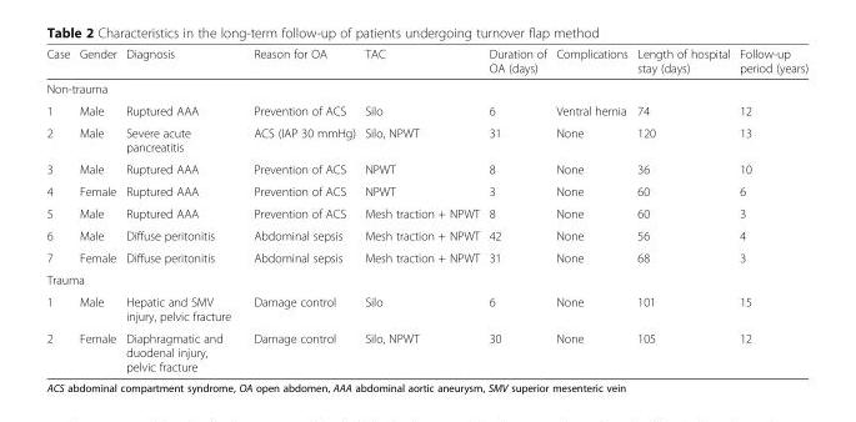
<table><thead><tr><td>Case</td><td>Gender</td><td>Diagnosis</td><td>Reason for OA</td><td>TAC</td><td>Duration of OA (days)</td><td>Complications</td><td>Length of hospital stay (days)</td><td>Follow-up period (years)</td></tr></thead><tbody><tr><td colspan="9">Non-trauma</td></tr><tr><td>1</td><td>Male</td><td>Ruptured AAA</td><td>Prevention of ACS</td><td>Silo</td><td>6</td><td>Ventral hernia</td><td>74</td><td>12</td></tr><tr><td>2</td><td>Male</td><td>Severe acute pancreatitis</td><td>ACS (IAP 30 mmHg)</td><td>Silo, NPWT</td><td>31</td><td>None</td><td>120</td><td>13</td></tr><tr><td>3</td><td>Male</td><td>Ruptured AAA</td><td>Prevention of ACS</td><td>NPWT</td><td>8</td><td>None</td><td>36</td><td>10</td></tr><tr><td>4</td><td>Female</td><td>Ruptured AAA</td><td>Prevention of ACS</td><td>NPWT</td><td>3</td><td>None</td><td>60</td><td>6</td></tr><tr><td>5</td><td>Male</td><td>Ruptured AAA</td><td>Prevention of ACS</td><td>Mesh traction + NPWT</td><td>8</td><td>None</td><td>60</td><td>3</td></tr><tr><td>6</td><td>Male</td><td>Diffuse peritonitis</td><td>Abdominal sepsis</td><td>Mesh traction + NPWT</td><td>42</td><td>None</td><td>56</td><td>4</td></tr><tr><td>7</td><td>Female</td><td>Diffuse peritonitis</td><td>Abdominal sepsis</td><td>Mesh traction + NPWT</td><td>31</td><td>None</td><td>68</td><td>3</td></tr><tr><td colspan="9">Trauma</td></tr><tr><td>1</td><td>Male</td><td>Hepatic and SMV injury, pelvic fracture</td><td>Damage control</td><td>Silo</td><td>6</td><td>None</td><td>101</td><td>15</td></tr><tr><td>2</td><td>Female</td><td>Diaphragmatic and duodenal injury, pelvic fracture</td><td>Damage control</td><td>Silo, NPWT</td><td>30</td><td>None</td><td>105</td><td>12</td></tr></tbody></table>